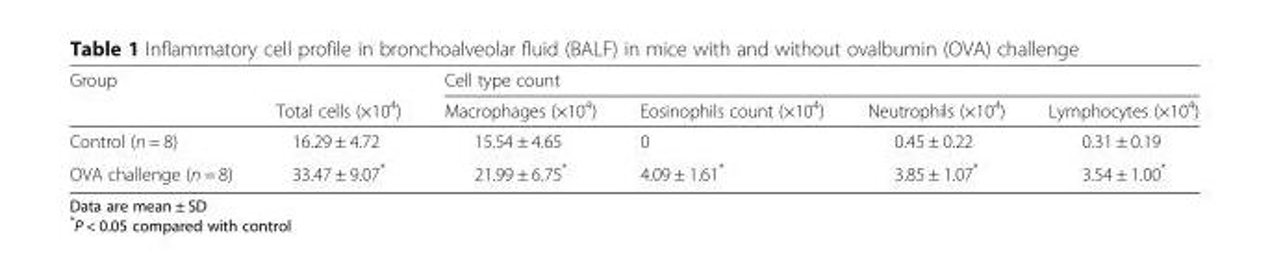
<table><thead><tr><td rowspan="2">Group</td><td rowspan="2">Total cells (×10<sup>4</sup>)</td><td colspan="4">Cell type count</td></tr><tr><td>Macrophages (×10<sup>4</sup>)</td><td>Eosinophils count (×10<sup>4</sup>)</td><td>Neutrophils (×10<sup>4</sup>)</td><td>Lymphocytes (×10<sup>4</sup>)</td></tr></thead><tbody><tr><td>Control (n = 8)</td><td>16.29 ± 4.72</td><td>15.54 ± 4.65</td><td>0</td><td>0.45 ± 0.22</td><td>0.31 ± 0.19</td></tr><tr><td>OVA challenge (n = 8)</td><td>33.47 ± 9.07*</td><td>21.99 ± 6.75*</td><td>4.09 ± 1.61*</td><td>3.85 ± 1.07*</td><td>3.54 ± 1.00*</td></tr></tbody></table>